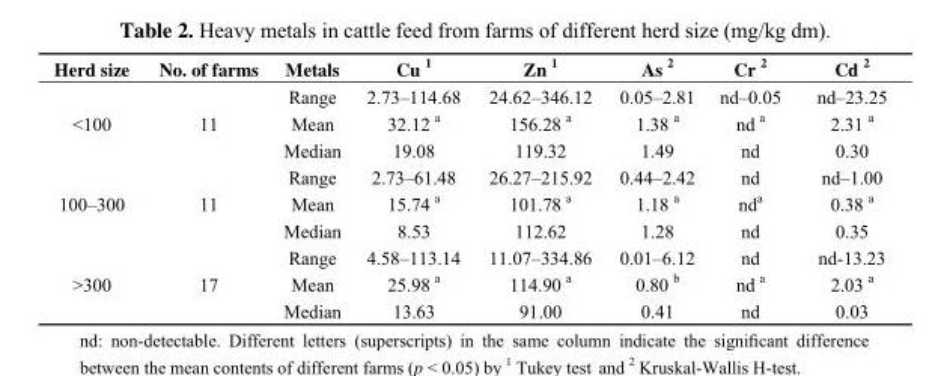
<table><thead><tr><td>Herd size</td><td>No. of farms</td><td>Metals</td><td>Cu <sup>1</sup></td><td>Zn <sup>1</sup></td><td>As <sup>2</sup></td><td>Cr <sup>2</sup></td><td>Cd <sup>2</sup></td></tr></thead><tbody><tr><td rowspan="3">&lt;100</td><td rowspan="3">11</td><td>Range</td><td>2.73–114.68</td><td>24.62–346.12</td><td>0.05–2.81</td><td>nd–0.05</td><td>nd–23.25</td></tr><tr><td>Mean</td><td>32.12 <sup>a</sup></td><td>156.28 <sup>a</sup></td><td>1.38 <sup>a</sup></td><td>nd <sup>a</sup></td><td>2.31 <sup>a</sup></td></tr><tr><td>Median</td><td>19.08</td><td>119.32</td><td>1.49</td><td>nd</td><td>0.30</td></tr><tr><td rowspan="3">100–300</td><td rowspan="3">11</td><td>Range</td><td>2.73–61.48</td><td>26.27–215.92</td><td>0.44–2.42</td><td>nd</td><td>nd–1.00</td></tr><tr><td>Mean</td><td>15.74 <sup>a</sup></td><td>101.78 <sup>a</sup></td><td>1.18 <sup>a</sup></td><td>nd<sup>a</sup></td><td>0.38 <sup>a</sup></td></tr><tr><td>Median</td><td>8.53</td><td>112.62</td><td>1.28</td><td>nd</td><td>0.35</td></tr><tr><td rowspan="3">&gt;300</td><td rowspan="3">17</td><td>Range</td><td>4.58–113.14</td><td>11.07–334.86</td><td>0.01–6.12</td><td>nd</td><td>nd-13.23</td></tr><tr><td>Mean</td><td>25.98 <sup>a</sup></td><td>114.90 <sup>a</sup></td><td>0.80 <sup>b</sup></td><td>nd <sup>a</sup></td><td>2.03 <sup>a</sup></td></tr><tr><td>Median</td><td>13.63</td><td>91.00</td><td>0.41</td><td>nd</td><td>0.03</td></tr></tbody></table>